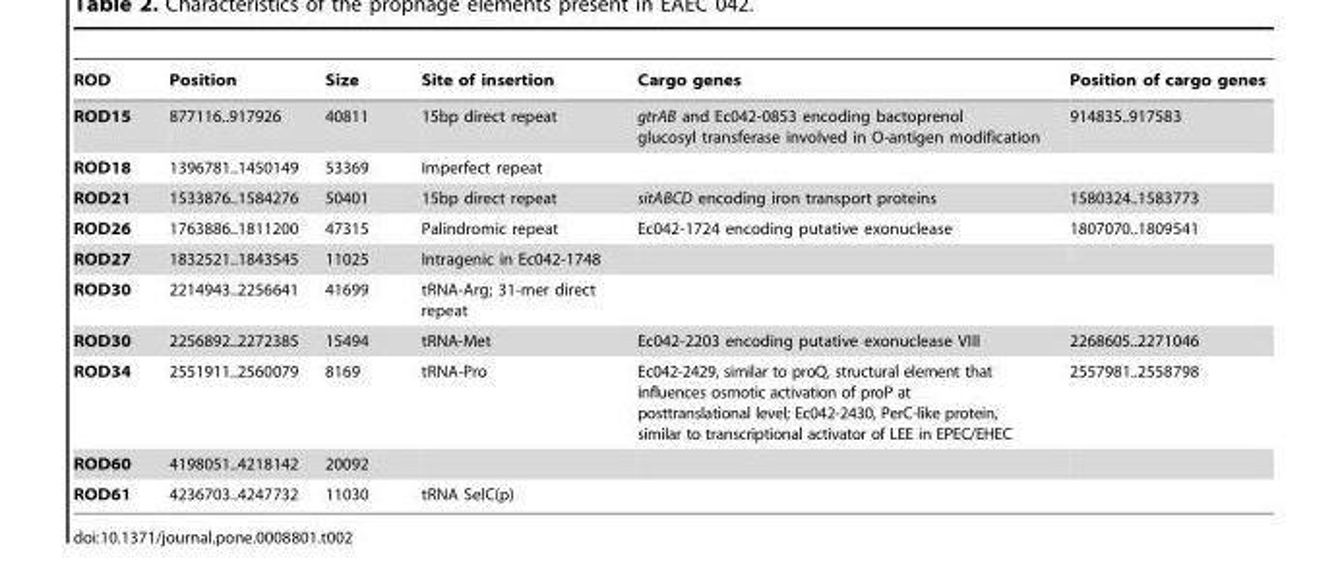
<table><thead><tr><td>ROD</td><td>Position</td><td>Size</td><td>Site of insertion</td><td>Cargo genes</td><td>Position of cargo genes</td></tr></thead><tbody><tr><td>ROD15</td><td>877116..917926</td><td>40811</td><td>15bp direct repeat</td><td>gtrAB and Ec042-0853 encoding bactoprenol glucosyl transferase involved in O-antigen modification</td><td>914835..917583</td></tr><tr><td>ROD18</td><td>1396781..1450149</td><td>53369</td><td>Imperfect repeat</td><td></td><td></td></tr><tr><td>ROD21</td><td>1533876..1584276</td><td>50401</td><td>15bp direct repeat</td><td>sitABCD encoding iron transport proteins</td><td>1580324..1583773</td></tr><tr><td>ROD26</td><td>1763886..1811200</td><td>47315</td><td>Palindromic repeat</td><td>Ec042-1724 encoding putative exonuclease</td><td>1807070..1809541</td></tr><tr><td>ROD27</td><td>1832521..1843545</td><td>11025</td><td>Intragenic in Ec042-1748</td><td></td><td></td></tr><tr><td>ROD30</td><td>2214943..2256641</td><td>41699</td><td>tRNA-Arg; 31-mer direct repeat</td><td></td><td></td></tr><tr><td>ROD30</td><td>2256892..2272385</td><td>15494</td><td>tRNA-Met</td><td>Ec042-2203 encoding putative exonuclease VIII</td><td>2268605..2271046</td></tr><tr><td>ROD34</td><td>2551911..2560079</td><td>8169</td><td>tRNA-Pro</td><td>Ec042-2429, similar to proQ, structural element that influences osmotic activation of proP at posttranslational level; Ec042-2430, PerC-like protein, similar to transcriptional activator of LEE in EPEC/EHEC</td><td>2557981..2558798</td></tr><tr><td>ROD60</td><td>4198051..4218142</td><td>20092</td><td></td><td></td><td></td></tr><tr><td>ROD61</td><td>4236703..4247732</td><td>11030</td><td>tRNA SelC(p)</td><td></td><td></td></tr></tbody></table>